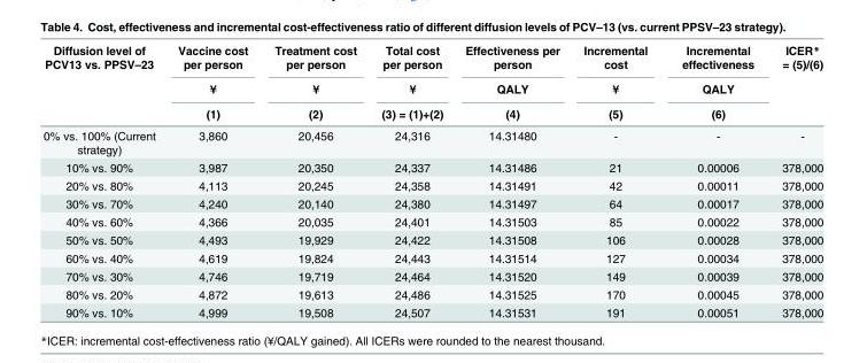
<table><thead><tr><td rowspan="3">Diffusion level of PCV13 vs. PPSV–23</td><td rowspan="3">Vaccine cost per person ¥ (1)</td><td rowspan="3">Treatment cost per person ¥ (2)</td><td rowspan="3">Total cost per person ¥ (3) = (1)+(2)</td><td rowspan="3">Effectiveness per person QALY (4)</td><td rowspan="3">Incremental cost ¥ (5)</td><td rowspan="3">Incremental effectiveness QALY (6)</td><td rowspan="3">ICER* = (5)/(6)</td></tr><tr></tr><tr></tr></thead><tbody><tr><td>0% vs. 100% (Current strategy)</td><td>3,860</td><td>20,456</td><td>24,316</td><td>14.31480</td><td>-</td><td>-</td><td>-</td></tr><tr><td>10% vs. 90%</td><td>3,987</td><td>20,350</td><td>24,337</td><td>14.31486</td><td>21</td><td>0.00006</td><td>378,000</td></tr><tr><td>20% vs. 80%</td><td>4,113</td><td>20,245</td><td>24,358</td><td>14.31491</td><td>42</td><td>0.00011</td><td>378,000</td></tr><tr><td>30% vs. 70%</td><td>4,240</td><td>20,140</td><td>24,380</td><td>14.31497</td><td>64</td><td>0.00017</td><td>378,000</td></tr><tr><td>40% vs. 60%</td><td>4,366</td><td>20,035</td><td>24,401</td><td>14.31503</td><td>85</td><td>0.00022</td><td>378,000</td></tr><tr><td>50% vs. 50%</td><td>4,493</td><td>19,929</td><td>24,422</td><td>14.31508</td><td>106</td><td>0.00028</td><td>378,000</td></tr><tr><td>60% vs. 40%</td><td>4,619</td><td>19,824</td><td>24,443</td><td>14.31514</td><td>127</td><td>0.00034</td><td>378,000</td></tr><tr><td>70% vs. 30%</td><td>4,746</td><td>19,719</td><td>24,464</td><td>14.31520</td><td>149</td><td>0.00039</td><td>378,000</td></tr><tr><td>80% vs. 20%</td><td>4,872</td><td>19,613</td><td>24,486</td><td>14.31525</td><td>170</td><td>0.00045</td><td>378,000</td></tr><tr><td>90% vs. 10%</td><td>4,999</td><td>19,508</td><td>24,507</td><td>14.31531</td><td>191</td><td>0.00051</td><td>378,000</td></tr></tbody></table>